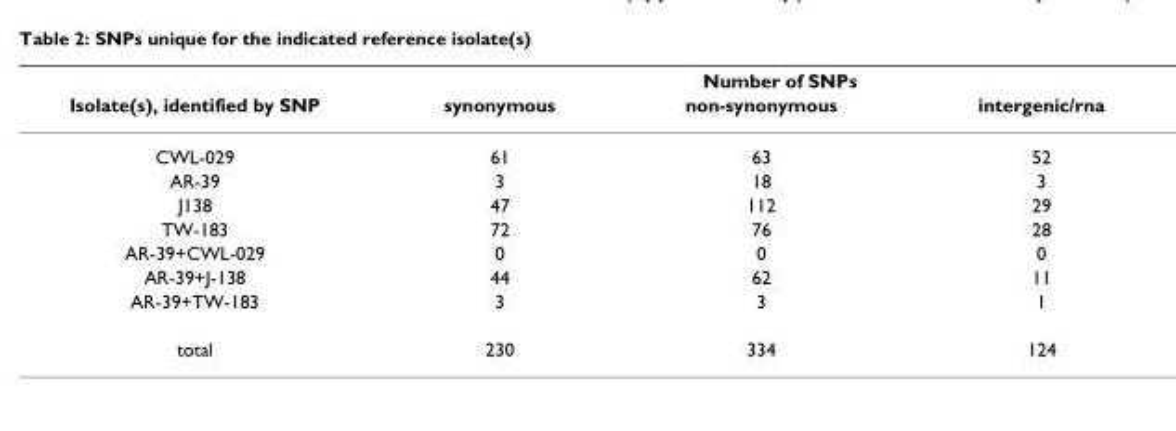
<table><thead><tr><td rowspan="2">Isolate(s), identified by SNP</td><td colspan="3">Number of SNPs</td></tr><tr><td>synonymous</td><td>non-synonymous</td><td>intergenic/rna</td></tr></thead><tbody><tr><td>CWL-029</td><td>61</td><td>63</td><td>52</td></tr><tr><td>AR-39</td><td>3</td><td>18</td><td>3</td></tr><tr><td>J138</td><td>47</td><td>112</td><td>29</td></tr><tr><td>TW-183</td><td>72</td><td>76</td><td>28</td></tr><tr><td>AR-39+CWL-029</td><td>0</td><td>0</td><td>0</td></tr><tr><td>AR-39+J-138</td><td>44</td><td>62</td><td>11</td></tr><tr><td>AR-39+TW-183</td><td>3</td><td>3</td><td>1</td></tr><tr><td>total</td><td>230</td><td>334</td><td>124</td></tr></tbody></table>